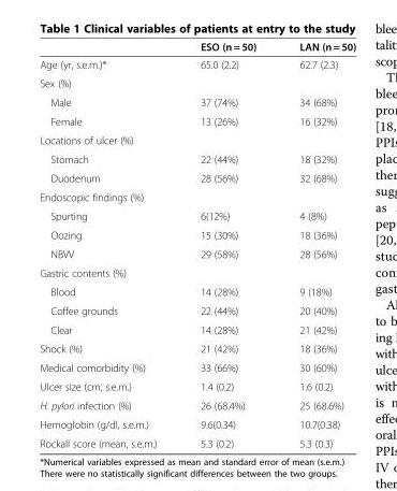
<table><thead><tr><td></td><td>ESO (n = 50)</td><td>LAN (n = 50)</td></tr></thead><tbody><tr><td>Age (yr, s.e.m.)*</td><td>65.0 (2.2)</td><td>62.7 (2.3)</td></tr><tr><td colspan="3">Sex (%)</td></tr><tr><td>Male</td><td>37 (74%)</td><td>34 (68%)</td></tr><tr><td>Female</td><td>13 (26%)</td><td>16 (32%)</td></tr><tr><td colspan="3">Locations of ulcer (%)</td></tr><tr><td>Stomach</td><td>22 (44%)</td><td>18 (32%)</td></tr><tr><td>Duodenum</td><td>28 (56%)</td><td>32 (68%)</td></tr><tr><td colspan="3">Endoscopic findings (%)</td></tr><tr><td>Spurting</td><td>6(12%)</td><td>4 (8%)</td></tr><tr><td>Oozing</td><td>15 (30%)</td><td>18 (36%)</td></tr><tr><td>NBVV</td><td>29 (58%)</td><td>28 (56%)</td></tr><tr><td colspan="3">Gastric contents (%)</td></tr><tr><td>Blood</td><td>14 (28%)</td><td>9 (18%)</td></tr><tr><td>Coffee grounds</td><td>22 (44%)</td><td>20 (40%)</td></tr><tr><td>Clear</td><td>14 (28%)</td><td>21 (42%)</td></tr><tr><td>Shock (%)</td><td>21 (42%)</td><td>18 (36%)</td></tr><tr><td>Medical comorbidity (%)</td><td>33 (66%)</td><td>30 (60%)</td></tr><tr><td>Ulcer size (cm, s.e.m.)</td><td>1.4 (0.2)</td><td>1.6 (0.2)</td></tr><tr><td>H. pylori infection (%)</td><td>26 (68.4%)</td><td>25 (68.6%)</td></tr><tr><td>Hemoglobin (g/dl, s.e.m.)</td><td>9.6(0.34)</td><td>10.7(0.38)</td></tr><tr><td>Rockall score (mean, s.e.m.)</td><td>5.3 (0.2)</td><td>5.3 (0.3)</td></tr></tbody></table>